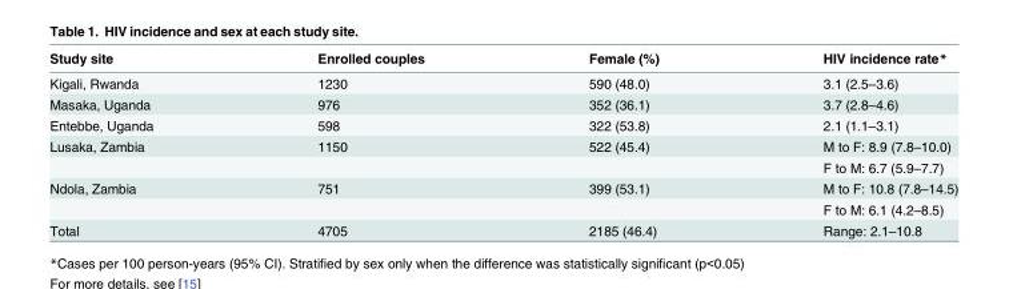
<table><thead><tr><td>Study site</td><td>Enrolled couples</td><td>Female (%)</td><td>HIV incidence rate*</td></tr></thead><tbody><tr><td>Kigali, Rwanda</td><td>1230</td><td>590 (48.0)</td><td>3.1 (2.5–3.6)</td></tr><tr><td>Masaka, Uganda</td><td>976</td><td>352 (36.1)</td><td>3.7 (2.8–4.6)</td></tr><tr><td>Entebbe, Uganda</td><td>598</td><td>322 (53.8)</td><td>2.1 (1.1–3.1)</td></tr><tr><td rowspan="2">Lusaka, Zambia</td><td>1150</td><td>522 (45.4)</td><td>M to F: 8.9 (7.8–10.0)</td></tr><tr><td></td><td></td><td>F to M: 6.7 (5.9–7.7)</td></tr><tr><td rowspan="2">Ndola, Zambia</td><td>751</td><td>399 (53.1)</td><td>M to F: 10.8 (7.8–14.5)</td></tr><tr><td></td><td></td><td>F to M: 6.1 (4.2–8.5)</td></tr><tr><td>Total</td><td>4705</td><td>2185 (46.4)</td><td>Range: 2.1–10.8</td></tr></tbody></table>